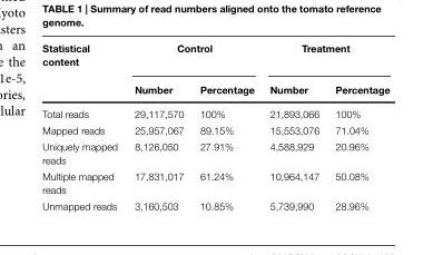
<table><thead><tr><td rowspan="2">Statistical content</td><td colspan="2">Control</td><td colspan="2">Treatment</td></tr><tr><td>Number</td><td>Percentage</td><td>Number</td><td>Percentage</td></tr></thead><tbody><tr><td>Total reads</td><td>29,117,570</td><td>100%</td><td>21,893,066</td><td>100%</td></tr><tr><td>Mapped reads</td><td>25,957,067</td><td>89.15%</td><td>15,553,076</td><td>71.04%</td></tr><tr><td>Uniquely mapped reads</td><td>8,126,050</td><td>27.91%</td><td>4,588,929</td><td>20.96%</td></tr><tr><td>Multiple mapped reads</td><td>17,831,017</td><td>61.24%</td><td>10,964,147</td><td>50.08%</td></tr><tr><td>Unmapped reads</td><td>3,160,503</td><td>10.85%</td><td>5,739,990</td><td>28.96%</td></tr></tbody></table>